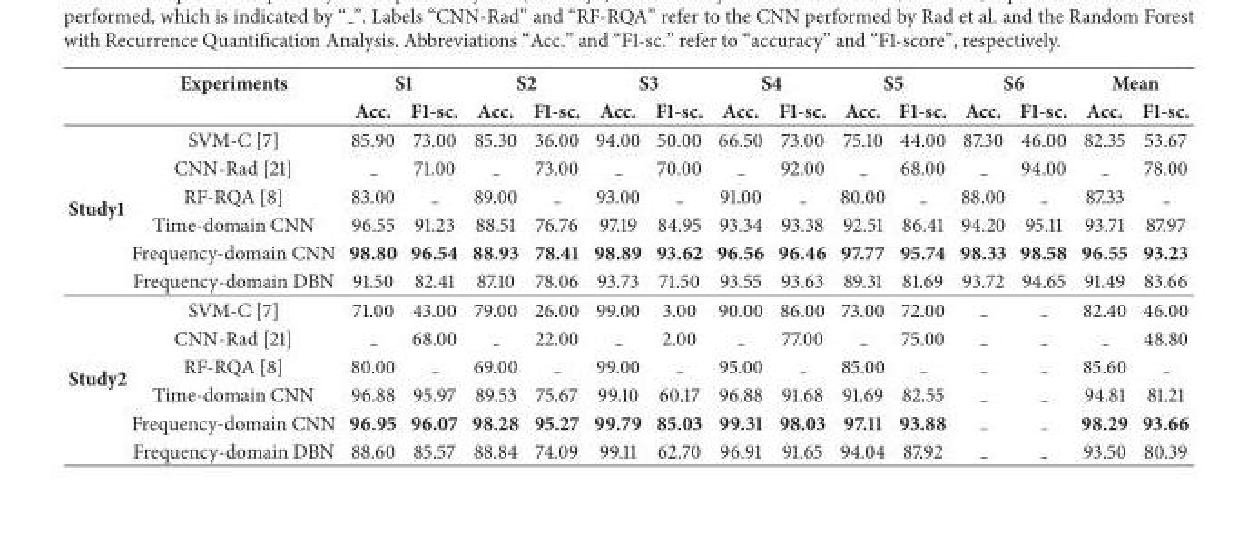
<table><thead><tr><td rowspan="2"></td><td rowspan="2">Experiments</td><td colspan="2">S1</td><td colspan="2">S2</td><td colspan="2">S3</td><td colspan="2">S4</td><td colspan="2">S5</td><td colspan="2">S6</td><td colspan="2">Mean</td></tr><tr><td>Acc.</td><td>F1-sc.</td><td>Acc.</td><td>F1-sc.</td><td>Acc.</td><td>F1-sc.</td><td>Acc.</td><td>F1-sc.</td><td>Acc.</td><td>F1-sc.</td><td>Acc.</td><td>F1-sc.</td><td>Acc.</td><td>F1-sc.</td></tr></thead><tbody><tr><td rowspan="6">Study1</td><td>SVM-C [7]</td><td>85.90</td><td>73.00</td><td>85.30</td><td>36.00</td><td>94.00</td><td>50.00</td><td>66.50</td><td>73.00</td><td>75.10</td><td>44.00</td><td>87.30</td><td>46.00</td><td>82.35</td><td>53.67</td></tr><tr><td>CNN-Rad [21]</td><td></td><td>71.00</td><td></td><td>73.00</td><td></td><td>70.00</td><td></td><td>92.00</td><td></td><td>68.00</td><td></td><td>94.00</td><td></td><td>78.00</td></tr><tr><td>RF-RQA [8]</td><td>83.00</td><td></td><td>89.00</td><td></td><td>93.00</td><td></td><td>91.00</td><td></td><td>80.00</td><td></td><td>88.00</td><td></td><td>87.33</td><td></td></tr><tr><td>Time-domain CNN</td><td>96.55</td><td>91.23</td><td>88.51</td><td>76.76</td><td>97.19</td><td>84.95</td><td>93.34</td><td>93.38</td><td>92.51</td><td>86.41</td><td>94.20</td><td>95.11</td><td>93.71</td><td>87.97</td></tr><tr><td>Frequency-domain CNN</td><td>98.80</td><td>96.54</td><td>88.93</td><td>78.41</td><td>98.89</td><td>93.62</td><td>96.56</td><td>96.46</td><td>97.77</td><td>95.74</td><td>98.33</td><td>98.58</td><td>96.55</td><td>93.23</td></tr><tr><td>Frequency-domain DBN</td><td>91.50</td><td>82.41</td><td>87.10</td><td>78.06</td><td>93.73</td><td>71.50</td><td>93.55</td><td>93.63</td><td>89.31</td><td>81.69</td><td>93.72</td><td>94.65</td><td>91.49</td><td>83.66</td></tr><tr><td rowspan="6">Study2</td><td>SVM-C [7]</td><td>71.00</td><td>43.00</td><td>79.00</td><td>26.00</td><td>99.00</td><td>3.00</td><td>90.00</td><td>86.00</td><td>73.00</td><td>72.00</td><td></td><td></td><td>82.40</td><td>46.00</td></tr><tr><td>CNN-Rad [21]</td><td></td><td>68.00</td><td></td><td>22.00</td><td></td><td>2.00</td><td></td><td>77.00</td><td></td><td>75.00</td><td></td><td></td><td></td><td>48.80</td></tr><tr><td>RF-RQA [8]</td><td>80.00</td><td></td><td>69.00</td><td></td><td>99.00</td><td></td><td>95.00</td><td></td><td>85.00</td><td></td><td></td><td></td><td>85.60</td><td></td></tr><tr><td>Time-domain CNN</td><td>96.88</td><td>95.97</td><td>89.53</td><td>75.67</td><td>99.10</td><td>60.17</td><td>96.88</td><td>91.68</td><td>91.69</td><td>82.55</td><td></td><td></td><td>94.81</td><td>81.21</td></tr><tr><td>Frequency-domain CNN</td><td>96.95</td><td>96.07</td><td>98.28</td><td>95.27</td><td>99.79</td><td>85.03</td><td>99.31</td><td>98.03</td><td>97.11</td><td>93.88</td><td></td><td></td><td>98.29</td><td>93.66</td></tr><tr><td>Frequency-domain DBN</td><td>88.60</td><td>85.57</td><td>88.84</td><td>74.09</td><td>99.11</td><td>62.70</td><td>96.91</td><td>91.65</td><td>94.04</td><td>87.92</td><td></td><td></td><td>93.50</td><td>80.39</td></tr></tbody></table>